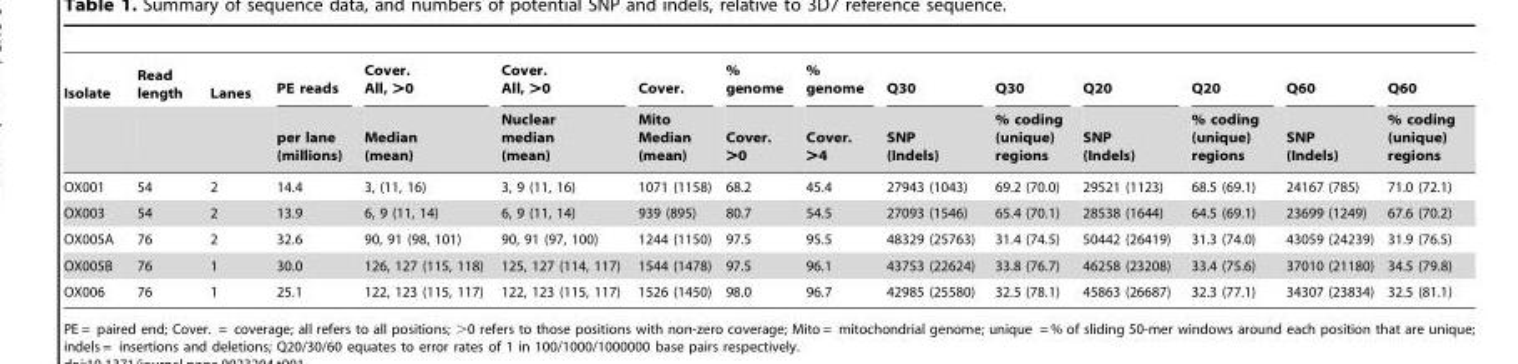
<table><thead><tr><td rowspan="2">Isolate</td><td rowspan="2">Read length</td><td rowspan="2">Lanes</td><td rowspan="2">PE reads per lane (millions)</td><td rowspan="2">Cover. All, &gt;0 Median (mean)</td><td rowspan="2">Cover. All, &gt;0 Nuclear median (mean)</td><td rowspan="2">Cover. Mito Median (mean)</td><td rowspan="2">% genome Cover. &gt;0</td><td rowspan="2">% genome Cover. &gt;4</td><td rowspan="2">Q30 SNP (Indels)</td><td rowspan="2">Q30 % coding (unique) regions</td><td rowspan="2">Q20 SNP (Indels)</td><td rowspan="2">Q20 % coding (unique) regions</td><td rowspan="2">Q60 SNP (Indels)</td><td rowspan="2">Q60 % coding (unique) regions</td></tr><tr></tr></thead><tbody><tr><td>OX001</td><td>54</td><td>2</td><td>14.4</td><td>3, (11, 16)</td><td>3, 9 (11, 16)</td><td>1071 (1158)</td><td>68.2</td><td>45.4</td><td>27943 (1043)</td><td>69.2 (70.0)</td><td>29521 (1123)</td><td>68.5 (69.1)</td><td>24167 (785)</td><td>71.0 (72.1)</td></tr><tr><td>OX003</td><td>54</td><td>2</td><td>13.9</td><td>6, 9 (11, 14)</td><td>6, 9 (11, 14)</td><td>939 (895)</td><td>80.7</td><td>54.5</td><td>27093 (1546)</td><td>65.4 (70.1)</td><td>28538 (1644)</td><td>64.5 (69.1)</td><td>23699 (1249)</td><td>67.6 (70.2)</td></tr><tr><td>OX005A</td><td>76</td><td>2</td><td>32.6</td><td>90, 91 (98, 101)</td><td>90, 91 (97, 100)</td><td>1244 (1150)</td><td>97.5</td><td>95.5</td><td>48329 (25763)</td><td>31.4 (74.5)</td><td>50442 (26419)</td><td>31.3 (74.0)</td><td>43059 (24239)</td><td>31.9 (76.5)</td></tr><tr><td>OX005B</td><td>76</td><td>1</td><td>30.0</td><td>126, 127 (115, 118)</td><td>125, 127 (114, 117)</td><td>1544 (1478)</td><td>97.5</td><td>96.1</td><td>43753 (22624)</td><td>33.8 (76.7)</td><td>46258 (23208)</td><td>33.4 (75.6)</td><td>37010 (21180)</td><td>34.5 (79.8)</td></tr><tr><td>OX006</td><td>76</td><td>1</td><td>25.1</td><td>122, 123 (115, 117)</td><td>122, 123 (115, 117)</td><td>1526 (1450)</td><td>98.0</td><td>96.7</td><td>42985 (25580)</td><td>32.5 (78.1)</td><td>45863 (26687)</td><td>32.3 (77.1)</td><td>34307 (23834)</td><td>32.5 (81.1)</td></tr></tbody></table>